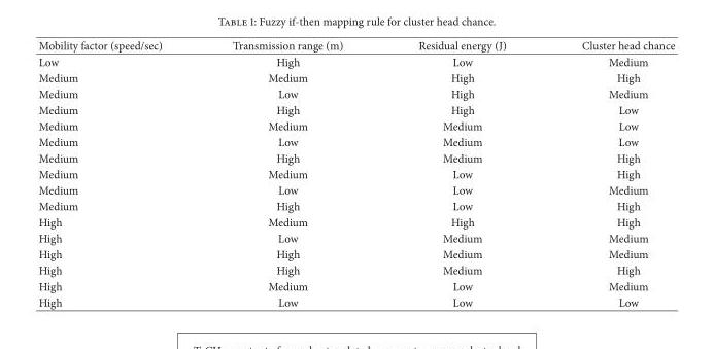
<table><thead><tr><td>Mobility factor (speed/sec)</td><td>Transmission range (m)</td><td>Residual energy (J)</td><td>Cluster head chance</td></tr></thead><tbody><tr><td>Low</td><td>High</td><td>Low</td><td>Medium</td></tr><tr><td>Medium</td><td>Medium</td><td>High</td><td>High</td></tr><tr><td>Medium</td><td>Low</td><td>High</td><td>Medium</td></tr><tr><td>Medium</td><td>High</td><td>High</td><td>Low</td></tr><tr><td>Medium</td><td>Medium</td><td>Medium</td><td>Low</td></tr><tr><td>Medium</td><td>Low</td><td>Medium</td><td>Low</td></tr><tr><td>Medium</td><td>High</td><td>Medium</td><td>High</td></tr><tr><td>Medium</td><td>Medium</td><td>Low</td><td>High</td></tr><tr><td>Medium</td><td>Low</td><td>Low</td><td>Medium</td></tr><tr><td>Medium</td><td>High</td><td>Low</td><td>High</td></tr><tr><td>High</td><td>Medium</td><td>High</td><td>High</td></tr><tr><td>High</td><td>Low</td><td>Medium</td><td>Medium</td></tr><tr><td>High</td><td>High</td><td>Medium</td><td>Medium</td></tr><tr><td>High</td><td>High</td><td>Medium</td><td>High</td></tr><tr><td>High</td><td>Medium</td><td>Low</td><td>Medium</td></tr><tr><td>High</td><td>Low</td><td>Low</td><td>Low</td></tr></tbody></table>